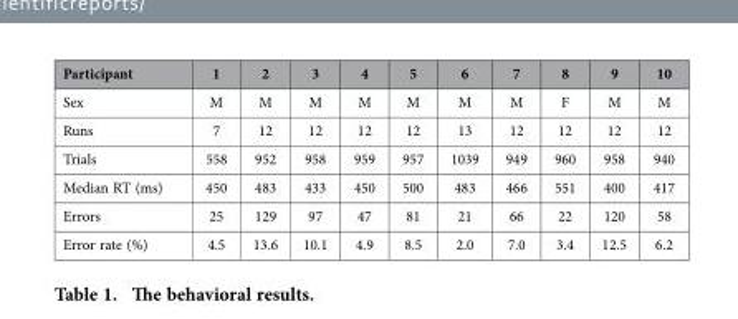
<table><thead><tr><td>Participant</td><td>1</td><td>2</td><td>3</td><td>4</td><td>5</td><td>6</td><td>7</td><td>8</td><td>9</td><td>10</td></tr></thead><tbody><tr><td>Sex</td><td>M</td><td>M</td><td>M</td><td>M</td><td>M</td><td>M</td><td>M</td><td>F</td><td>M</td><td>M</td></tr><tr><td>Runs</td><td>7</td><td>12</td><td>12</td><td>12</td><td>12</td><td>13</td><td>12</td><td>12</td><td>12</td><td>12</td></tr><tr><td>Trials</td><td>558</td><td>952</td><td>958</td><td>959</td><td>957</td><td>1039</td><td>949</td><td>960</td><td>958</td><td>940</td></tr><tr><td>Median RT (ms)</td><td>450</td><td>483</td><td>433</td><td>450</td><td>500</td><td>483</td><td>466</td><td>551</td><td>400</td><td>417</td></tr><tr><td>Errors</td><td>25</td><td>129</td><td>97</td><td>47</td><td>81</td><td>21</td><td>66</td><td>22</td><td>120</td><td>58</td></tr><tr><td>Error rate (%)</td><td>4.5</td><td>13.6</td><td>10.1</td><td>4.9</td><td>8.5</td><td>2.0</td><td>7.0</td><td>3.4</td><td>12.5</td><td>6.2</td></tr></tbody></table>